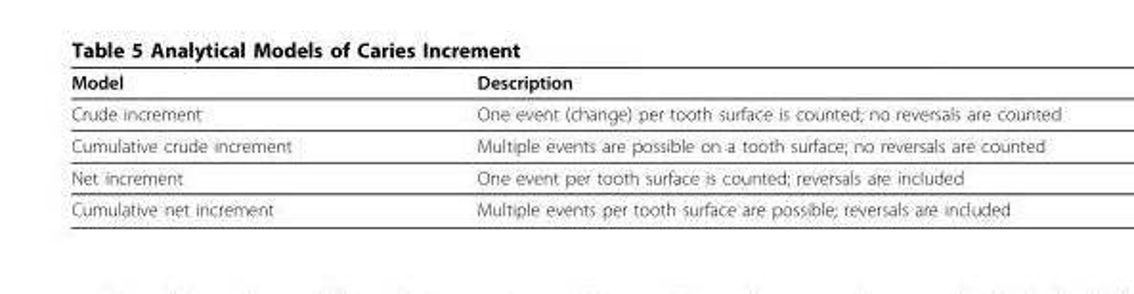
<table><thead><tr><td>Model</td><td>Description</td></tr></thead><tbody><tr><td>Crude increment</td><td>One event (change) per tooth surface is counted; no reversals are counted</td></tr><tr><td>Cumulative crude increment</td><td>Multiple events are possible on a tooth surface; no reversals are counted</td></tr><tr><td>Net increment</td><td>One event per tooth surface is counted; reversals are included</td></tr><tr><td>Cumulative net increment</td><td>Multiple events per tooth surface are possible; reversals are included</td></tr></tbody></table>